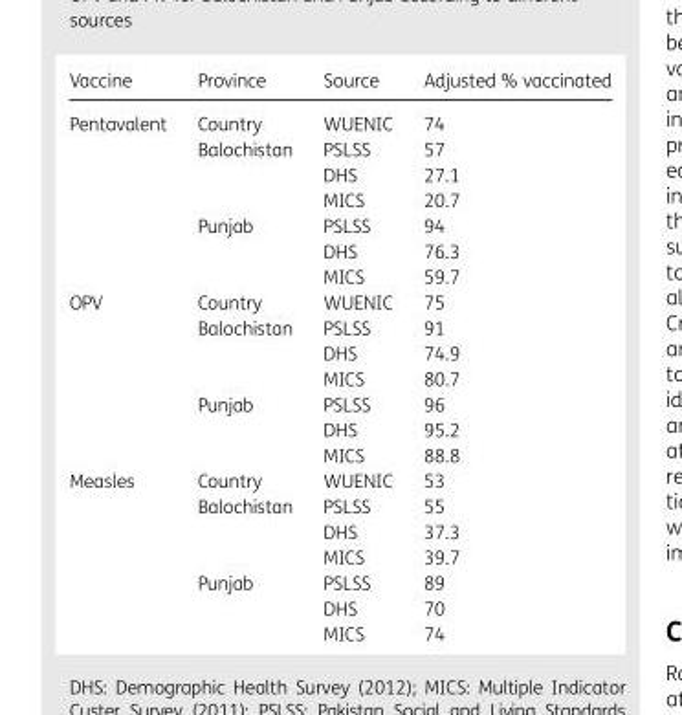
<table><thead><tr><td>Vaccine</td><td>Province</td><td>Source</td><td>Adjusted % vaccinated</td></tr></thead><tbody><tr><td rowspan="7">Pentavalent</td><td>Country</td><td>WUENIC</td><td>74</td></tr><tr><td>Balochistan</td><td>PSLSS</td><td>57</td></tr><tr><td></td><td>DHS</td><td>27.1</td></tr><tr><td></td><td>MICS</td><td>20.7</td></tr><tr><td>Punjab</td><td>PSLSS</td><td>94</td></tr><tr><td></td><td>DHS</td><td>76.3</td></tr><tr><td></td><td>MICS</td><td>59.7</td></tr><tr><td rowspan="7">OPV</td><td>Country</td><td>WUENIC</td><td>75</td></tr><tr><td>Balochistan</td><td>PSLSS</td><td>91</td></tr><tr><td></td><td>DHS</td><td>74.9</td></tr><tr><td></td><td>MICS</td><td>80.7</td></tr><tr><td>Punjab</td><td>PSLSS</td><td>96</td></tr><tr><td></td><td>DHS</td><td>95.2</td></tr><tr><td></td><td>MICS</td><td>88.8</td></tr><tr><td rowspan="7">Measles</td><td>Country</td><td>WUENIC</td><td>53</td></tr><tr><td>Balochistan</td><td>PSLSS</td><td>55</td></tr><tr><td></td><td>DHS</td><td>37.3</td></tr><tr><td></td><td>MICS</td><td>39.7</td></tr><tr><td>Punjab</td><td>PSLSS</td><td>89</td></tr><tr><td></td><td>DHS</td><td>70</td></tr><tr><td></td><td>MICS</td><td>74</td></tr></tbody></table>